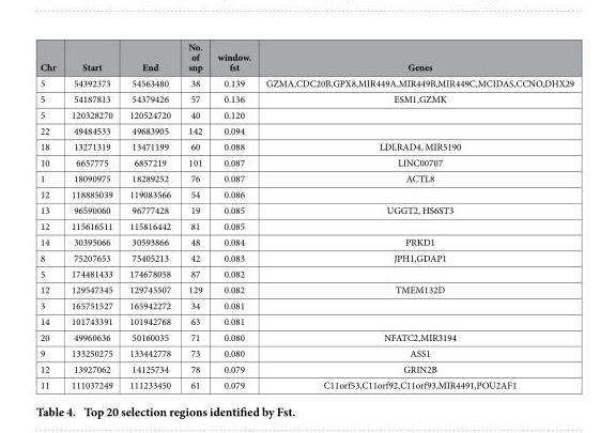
<table><thead><tr><td>Chr</td><td>Start</td><td>End</td><td>No. of snp</td><td>window. fst</td><td>Genes</td></tr></thead><tbody><tr><td>5</td><td>54392373</td><td>54563480</td><td>38</td><td>0.139</td><td>GZMA,CDC20B,GPX8,MIR449A,MIR449B,MIR449C,MCIDAS,CCNO,DHX29</td></tr><tr><td>5</td><td>54187813</td><td>54379426</td><td>57</td><td>0.136</td><td>ESM1,GZMK</td></tr><tr><td>5</td><td>120328270</td><td>120524720</td><td>40</td><td>0.120</td><td></td></tr><tr><td>22</td><td>49484533</td><td>49683905</td><td>142</td><td>0.094</td><td></td></tr><tr><td>18</td><td>13271319</td><td>13471199</td><td>60</td><td>0.088</td><td>LDLRAD4, MIR5190</td></tr><tr><td>10</td><td>6657775</td><td>6857219</td><td>101</td><td>0.087</td><td>LINC00707</td></tr><tr><td>1</td><td>18090975</td><td>18289252</td><td>76</td><td>0.087</td><td>ACTL8</td></tr><tr><td>12</td><td>118885039</td><td>119083566</td><td>54</td><td>0.086</td><td></td></tr><tr><td>13</td><td>96590060</td><td>96777428</td><td>19</td><td>0.085</td><td>UGGT2, HS6ST3</td></tr><tr><td>12</td><td>115616511</td><td>115816442</td><td>81</td><td>0.085</td><td></td></tr><tr><td>14</td><td>30395066</td><td>30593866</td><td>48</td><td>0.084</td><td>PRKD1</td></tr><tr><td>8</td><td>75207653</td><td>75405213</td><td>42</td><td>0.083</td><td>JPH1,GDAP1</td></tr><tr><td>5</td><td>174481433</td><td>174678058</td><td>87</td><td>0.082</td><td></td></tr><tr><td>12</td><td>129547345</td><td>129745507</td><td>129</td><td>0.082</td><td>TMEM132D</td></tr><tr><td>3</td><td>165751527</td><td>165942272</td><td>34</td><td>0.081</td><td></td></tr><tr><td>14</td><td>101743391</td><td>101942768</td><td>63</td><td>0.081</td><td></td></tr><tr><td>20</td><td>49960636</td><td>50160035</td><td>71</td><td>0.080</td><td>NFATC2,MIR3194</td></tr><tr><td>9</td><td>133250275</td><td>133442778</td><td>73</td><td>0.080</td><td>ASS1</td></tr><tr><td>12</td><td>13927062</td><td>14125734</td><td>78</td><td>0.079</td><td>GRIN2B</td></tr><tr><td>11</td><td>111037249</td><td>111233450</td><td>61</td><td>0.079</td><td>C11orf53,C11orf92,C11orf93,MIR4491,POU2AF1</td></tr></tbody></table>